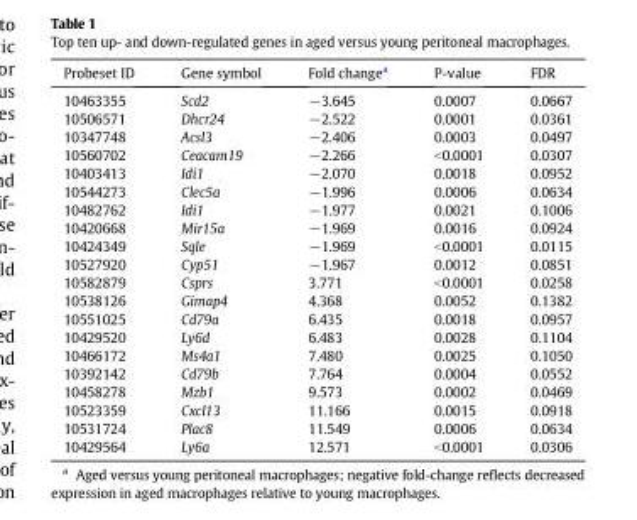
<table><thead><tr><td>Probeset ID</td><td>Gene symbol</td><td>Fold change<sup>a</sup></td><td>P-value</td><td>FDR</td></tr></thead><tbody><tr><td>10463355</td><td>Scd2</td><td>−3.645</td><td>0.0007</td><td>0.0667</td></tr><tr><td>10506571</td><td>Dhcr24</td><td>−2.522</td><td>0.0001</td><td>0.0361</td></tr><tr><td>10347748</td><td>Acsl3</td><td>−2.406</td><td>0.0003</td><td>0.0497</td></tr><tr><td>10560702</td><td>Ceacam19</td><td>−2.266</td><td>&lt;0.0001</td><td>0.0307</td></tr><tr><td>10403413</td><td>Idi1</td><td>−2.070</td><td>0.0018</td><td>0.0952</td></tr><tr><td>10544273</td><td>Clec5a</td><td>−1.996</td><td>0.0006</td><td>0.0634</td></tr><tr><td>10482762</td><td>Idi1</td><td>−1.977</td><td>0.0021</td><td>0.1006</td></tr><tr><td>10420668</td><td>Mir15a</td><td>−1.969</td><td>0.0016</td><td>0.0924</td></tr><tr><td>10424349</td><td>Sqle</td><td>−1.969</td><td>&lt;0.0001</td><td>0.0115</td></tr><tr><td>10527920</td><td>Cyp51</td><td>−1.967</td><td>0.0012</td><td>0.0851</td></tr><tr><td>10582879</td><td>Csprs</td><td>3.771</td><td>&lt;0.0001</td><td>0.0258</td></tr><tr><td>10538126</td><td>Gimap4</td><td>4.368</td><td>0.0052</td><td>0.1382</td></tr><tr><td>10551025</td><td>Cd79a</td><td>6.435</td><td>0.0018</td><td>0.0957</td></tr><tr><td>10429520</td><td>Ly6d</td><td>6.483</td><td>0.0028</td><td>0.1104</td></tr><tr><td>10466172</td><td>Ms4a1</td><td>7.480</td><td>0.0025</td><td>0.1050</td></tr><tr><td>10392142</td><td>Cd79b</td><td>7.764</td><td>0.0004</td><td>0.0552</td></tr><tr><td>10458278</td><td>Mzb1</td><td>9.573</td><td>0.0002</td><td>0.0469</td></tr><tr><td>10523359</td><td>Cxcl13</td><td>11.166</td><td>0.0015</td><td>0.0918</td></tr><tr><td>10531724</td><td>Plac8</td><td>11.549</td><td>0.0006</td><td>0.0634</td></tr><tr><td>10429564</td><td>Ly6a</td><td>12.571</td><td>&lt;0.0001</td><td>0.0306</td></tr></tbody></table>